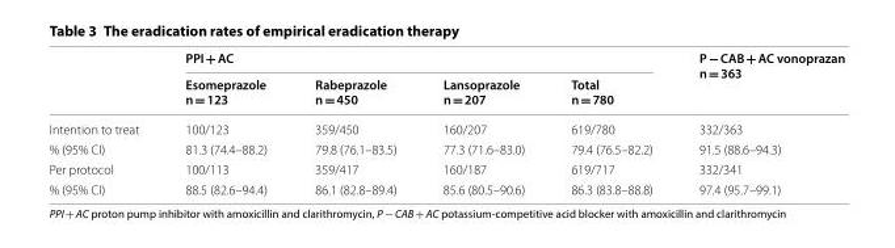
<table><thead><tr><td rowspan="2"></td><td colspan="4">PPI + AC</td><td rowspan="2">P − CAB + AC vonoprazan n = 363</td></tr><tr><td>Esomeprazole n = 123</td><td>Rabeprazole n = 450</td><td>Lansoprazole n = 207</td><td>Total n = 780</td></tr></thead><tbody><tr><td>Intention to treat</td><td>100/123</td><td>359/450</td><td>160/207</td><td>619/780</td><td>332/363</td></tr><tr><td>% (95% CI)</td><td>81.3 (74.4–88.2)</td><td>79.8 (76.1–83.5)</td><td>77.3 (71.6–83.0)</td><td>79.4 (76.5–82.2)</td><td>91.5 (88.6–94.3)</td></tr><tr><td>Per protocol</td><td>100/113</td><td>359/417</td><td>160/187</td><td>619/717</td><td>332/341</td></tr><tr><td>% (95% CI)</td><td>88.5 (82.6–94.4)</td><td>86.1 (82.8–89.4)</td><td>85.6 (80.5–90.6)</td><td>86.3 (83.8–88.8)</td><td>97.4 (95.7–99.1)</td></tr></tbody></table>